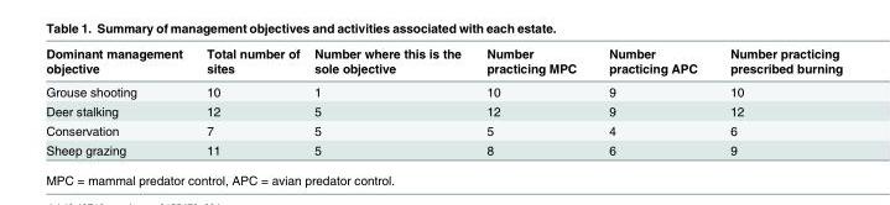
<table><thead><tr><td>Dominant management objective</td><td>Total number of sites</td><td>Number where this is the sole objective</td><td>Number practicing MPC</td><td>Number practicing APC</td><td>Number practicing prescribed burning</td></tr></thead><tbody><tr><td>Grouse shooting</td><td>10</td><td>1</td><td>10</td><td>9</td><td>10</td></tr><tr><td>Deer stalking</td><td>12</td><td>5</td><td>12</td><td>9</td><td>12</td></tr><tr><td>Conservation</td><td>7</td><td>5</td><td>5</td><td>4</td><td>6</td></tr><tr><td>Sheep grazing</td><td>11</td><td>5</td><td>8</td><td>6</td><td>9</td></tr></tbody></table>